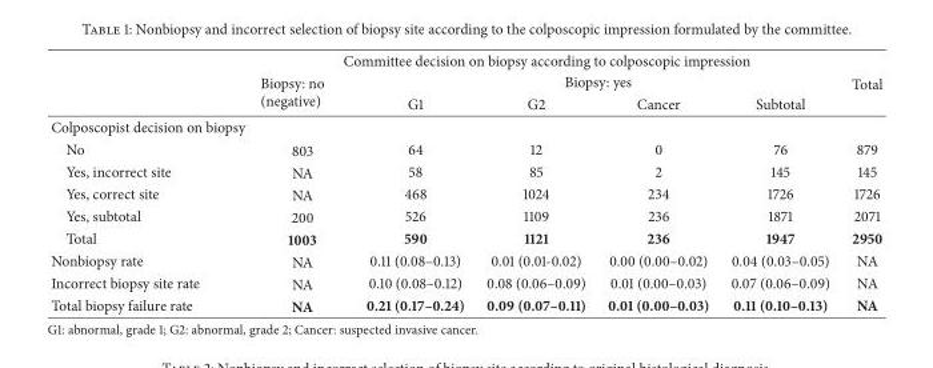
<table><thead><tr><td rowspan="3"></td><td colspan="5">Committee decision on biopsy according to colposcopic impression</td><td rowspan="3">Total</td></tr><tr><td rowspan="2">Biopsy: no (negative)</td><td colspan="4">Biopsy: yes</td></tr><tr><td>G1</td><td>G2</td><td>Cancer</td><td>Subtotal</td></tr></thead><tbody><tr><td colspan="7">Colposcopist decision on biopsy</td></tr><tr><td>No</td><td>803</td><td>64</td><td>12</td><td>0</td><td>76</td><td>879</td></tr><tr><td>Yes, incorrect site</td><td>NA</td><td>58</td><td>85</td><td>2</td><td>145</td><td>145</td></tr><tr><td>Yes, correct site</td><td>NA</td><td>468</td><td>1024</td><td>234</td><td>1726</td><td>1726</td></tr><tr><td>Yes, subtotal</td><td>200</td><td>526</td><td>1109</td><td>236</td><td>1871</td><td>2071</td></tr><tr><td>Total</td><td>1003</td><td>590</td><td>1121</td><td>236</td><td>1947</td><td>2950</td></tr><tr><td>Nonbiopsy rate</td><td>NA</td><td>0.11 (0.08–0.13)</td><td>0.01 (0.01-0.02)</td><td>0.00 (0.00–0.02)</td><td>0.04 (0.03–0.05)</td><td>NA</td></tr><tr><td>Incorrect biopsy site rate</td><td>NA</td><td>0.10 (0.08–0.12)</td><td>0.08 (0.06–0.09)</td><td>0.01 (0.00–0.03)</td><td>0.07 (0.06–0.09)</td><td>NA</td></tr><tr><td>Total biopsy failure rate</td><td>NA</td><td>0.21 (0.17–0.24)</td><td>0.09 (0.07–0.11)</td><td>0.01 (0.00–0.03)</td><td>0.11 (0.10–0.13)</td><td>NA</td></tr></tbody></table>